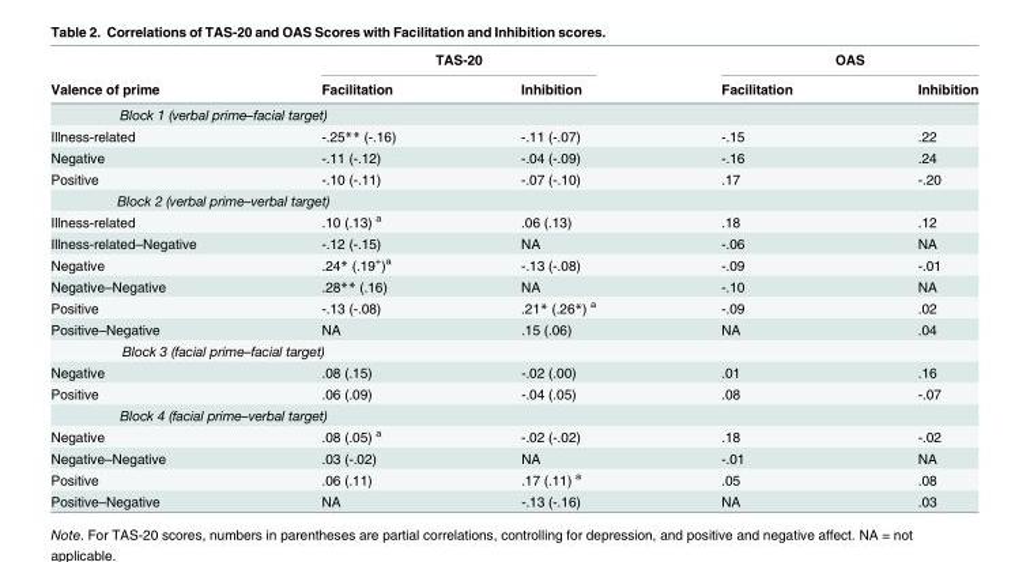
<table><thead><tr><td rowspan="2">Valence of prime</td><td colspan="2">TAS-20</td><td colspan="2">OAS</td></tr><tr><td>Facilitation</td><td>Inhibition</td><td>Facilitation</td><td>Inhibition</td></tr></thead><tbody><tr><td colspan="5">Block 1 (verbal prime–facial target)</td></tr><tr><td>Illness-related</td><td>-.25** (-.16)</td><td>-.11 (-.07)</td><td>-.15</td><td>.22</td></tr><tr><td>Negative</td><td>-.11 (-.12)</td><td>-.04 (-.09)</td><td>-.16</td><td>.24</td></tr><tr><td>Positive</td><td>-.10 (-.11)</td><td>-.07 (-.10)</td><td>.17</td><td>-.20</td></tr><tr><td colspan="5">Block 2 (verbal prime–verbal target)</td></tr><tr><td>Illness-related</td><td>.10 (.13) <sup>a</sup></td><td>.06 (.13)</td><td>.18</td><td>.12</td></tr><tr><td>Illness-related–Negative</td><td>-.12 (-.15)</td><td>NA</td><td>-.06</td><td>NA</td></tr><tr><td>Negative</td><td>.24* (.19<sup>+</sup>)<sup>a</sup></td><td>-.13 (-.08)</td><td>-.09</td><td>-.01</td></tr><tr><td>Negative–Negative</td><td>.28** (.16)</td><td>NA</td><td>-.10</td><td>NA</td></tr><tr><td>Positive</td><td>-.13 (-.08)</td><td>.21* (.26*) <sup>a</sup></td><td>-.09</td><td>.02</td></tr><tr><td>Positive–Negative</td><td>NA</td><td>.15 (.06)</td><td>NA</td><td>.04</td></tr><tr><td colspan="5">Block 3 (facial prime–facial target)</td></tr><tr><td>Negative</td><td>.08 (.15)</td><td>-.02 (.00)</td><td>.01</td><td>.16</td></tr><tr><td>Positive</td><td>.06 (.09)</td><td>-.04 (.05)</td><td>.08</td><td>-.07</td></tr><tr><td colspan="5">Block 4 (facial prime–verbal target)</td></tr><tr><td>Negative</td><td>.08 (.05) <sup>a</sup></td><td>-.02 (-.02)</td><td>.18</td><td>-.02</td></tr><tr><td>Negative–Negative</td><td>.03 (-.02)</td><td>NA</td><td>-.01</td><td>NA</td></tr><tr><td>Positive</td><td>.06 (.11)</td><td>.17 (.11) <sup>a</sup></td><td>.05</td><td>.08</td></tr><tr><td>Positive–Negative</td><td>NA</td><td>-.13 (-.16)</td><td>NA</td><td>.03</td></tr></tbody></table>